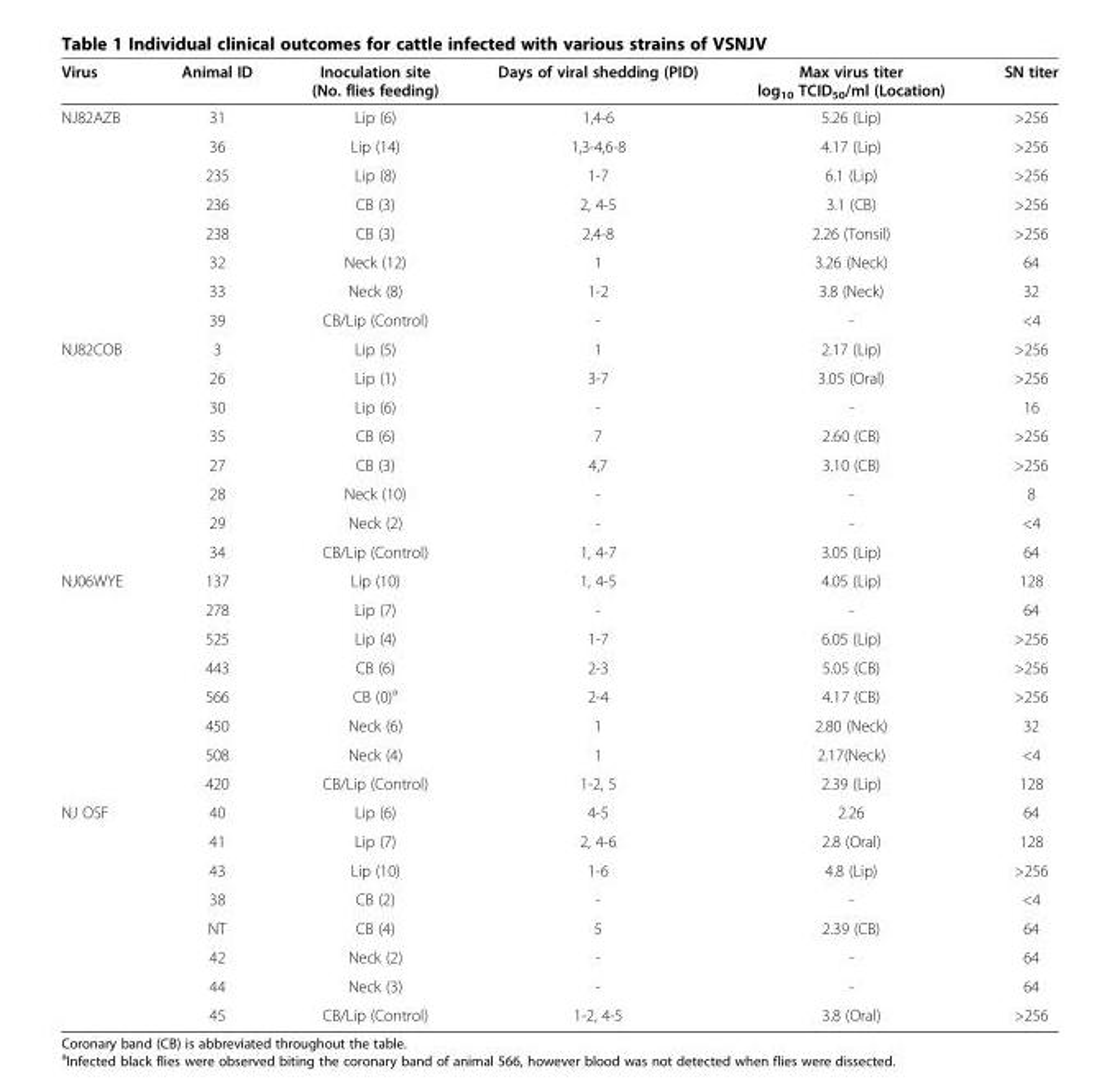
<table><thead><tr><td>Virus</td><td>Animal ID</td><td>Inoculation site (No. flies feeding)</td><td>Days of viral shedding (PID)</td><td>Max virus titer log<sub>10</sub> TCID<sub>50</sub>/ml (Location)</td><td>SN titer</td></tr></thead><tbody><tr><td rowspan="8">NJ82AZB</td><td>31</td><td>Lip (6)</td><td>1,4-6</td><td>5.26 (Lip)</td><td>&gt;256</td></tr><tr><td>36</td><td>Lip (14)</td><td>1,3-4,6-8</td><td>4.17 (Lip)</td><td>&gt;256</td></tr><tr><td>235</td><td>Lip (8)</td><td>1-7</td><td>6.1 (Lip)</td><td>&gt;256</td></tr><tr><td>236</td><td>CB (3)</td><td>2, 4-5</td><td>3.1 (CB)</td><td>&gt;256</td></tr><tr><td>238</td><td>CB (3)</td><td>2,4-8</td><td>2.26 (Tonsil)</td><td>&gt;256</td></tr><tr><td>32</td><td>Neck (12)</td><td>1</td><td>3.26 (Neck)</td><td>64</td></tr><tr><td>33</td><td>Neck (8)</td><td>1-2</td><td>3.8 (Neck)</td><td>32</td></tr><tr><td>39</td><td>CB/Lip (Control)</td><td>-</td><td>-</td><td>&lt;4</td></tr><tr><td rowspan="8">NJ82COB</td><td>3</td><td>Lip (5)</td><td>1</td><td>2.17 (Lip)</td><td>&gt;256</td></tr><tr><td>26</td><td>Lip (1)</td><td>3-7</td><td>3.05 (Oral)</td><td>&gt;256</td></tr><tr><td>30</td><td>Lip (6)</td><td>-</td><td>-</td><td>16</td></tr><tr><td>35</td><td>CB (6)</td><td>7</td><td>2.60 (CB)</td><td>&gt;256</td></tr><tr><td>27</td><td>CB (3)</td><td>4,7</td><td>3.10 (CB)</td><td>&gt;256</td></tr><tr><td>28</td><td>Neck (10)</td><td>-</td><td>-</td><td>8</td></tr><tr><td>29</td><td>Neck (2)</td><td>-</td><td>-</td><td>&lt;4</td></tr><tr><td>34</td><td>CB/Lip (Control)</td><td>1, 4-7</td><td>3.05 (Lip)</td><td>64</td></tr><tr><td rowspan="8">NJ06WYE</td><td>137</td><td>Lip (10)</td><td>1, 4-5</td><td>4.05 (Lip)</td><td>128</td></tr><tr><td>278</td><td>Lip (7)</td><td>-</td><td>-</td><td>64</td></tr><tr><td>525</td><td>Lip (4)</td><td>1-7</td><td>6.05 (Lip)</td><td>&gt;256</td></tr><tr><td>443</td><td>CB (6)</td><td>2-3</td><td>5.05 (CB)</td><td>&gt;256</td></tr><tr><td>566</td><td>CB (0)<sup>a</sup></td><td>2-4</td><td>4.17 (CB)</td><td>&gt;256</td></tr><tr><td>450</td><td>Neck (6)</td><td>1</td><td>2.80 (Neck)</td><td>32</td></tr><tr><td>508</td><td>Neck (4)</td><td>1</td><td>2.17(Neck)</td><td>&lt;4</td></tr><tr><td>420</td><td>CB/Lip (Control)</td><td>1-2, 5</td><td>2.39 (Lip)</td><td>128</td></tr><tr><td rowspan="8">NJ OSF</td><td>40</td><td>Lip (6)</td><td>4-5</td><td>2.26</td><td>64</td></tr><tr><td>41</td><td>Lip (7)</td><td>2, 4-6</td><td>2.8 (Oral)</td><td>128</td></tr><tr><td>43</td><td>Lip (10)</td><td>1-6</td><td>4.8 (Lip)</td><td>&gt;256</td></tr><tr><td>38</td><td>CB (2)</td><td>-</td><td>-</td><td>&lt;4</td></tr><tr><td>NT</td><td>CB (4)</td><td>5</td><td>2.39 (CB)</td><td>64</td></tr><tr><td>42</td><td>Neck (2)</td><td>-</td><td>-</td><td>64</td></tr><tr><td>44</td><td>Neck (3)</td><td>-</td><td>-</td><td>64</td></tr><tr><td>45</td><td>CB/Lip (Control)</td><td>1-2, 4-5</td><td>3.8 (Oral)</td><td>&gt;256</td></tr></tbody></table>